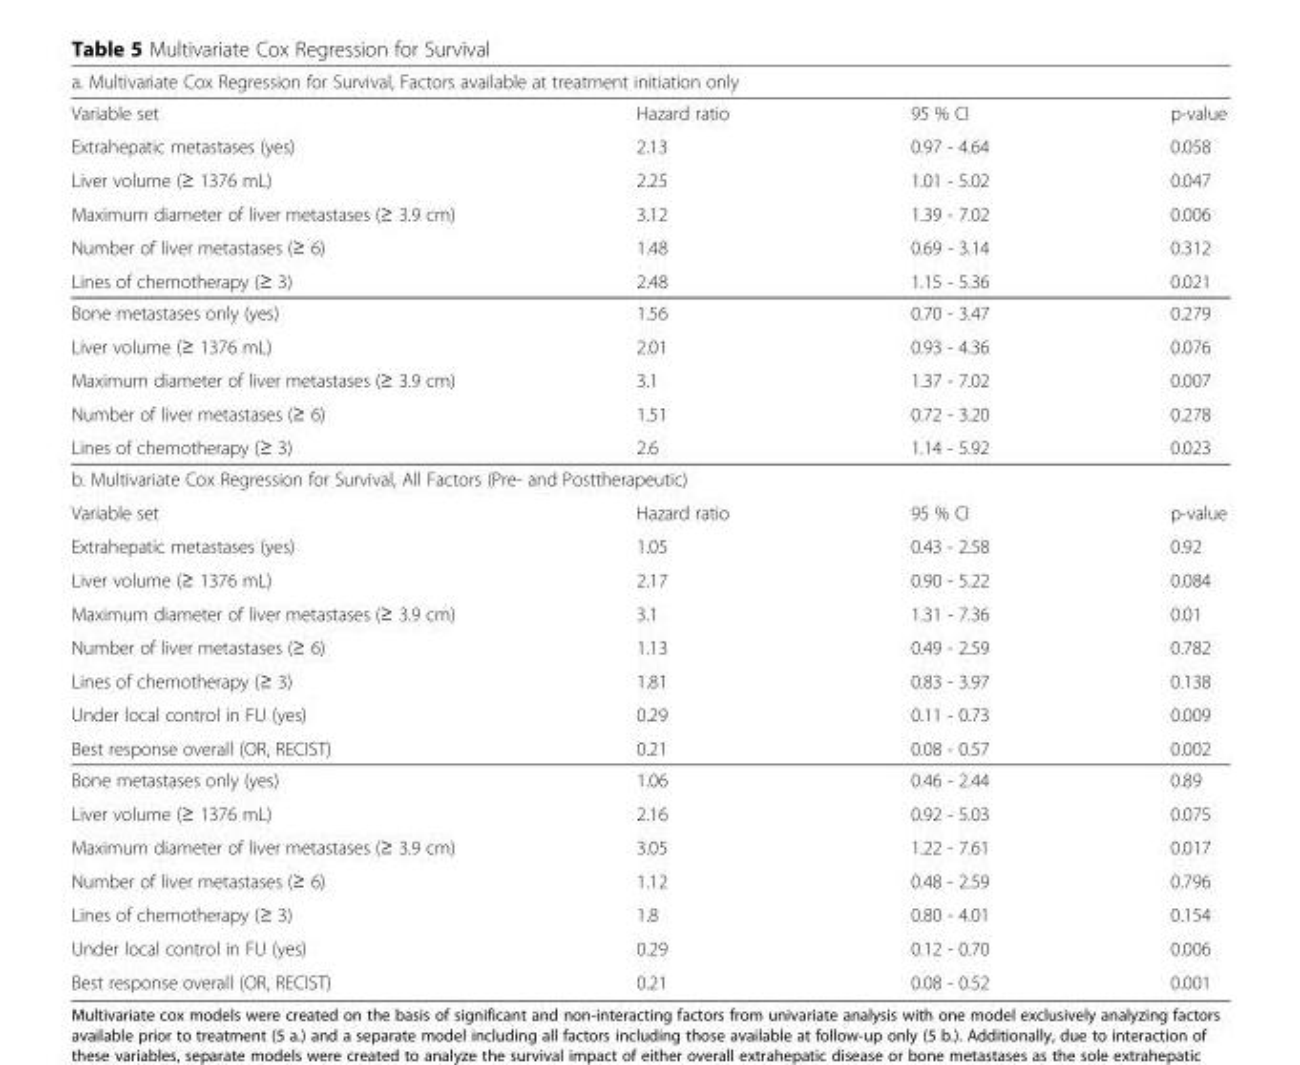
<table><tbody><tr><td colspan="4">a. Multivariate Cox Regression for Survival, Factors available at treatment initiation only</td></tr><tr><td>Variable set</td><td>Hazard ratio</td><td>95 % CI</td><td>p-value</td></tr><tr><td>Extrahepatic metastases (yes)</td><td>2.13</td><td>0.97 - 4.64</td><td>0.058</td></tr><tr><td>Liver volume (≥ 1376 mL)</td><td>2.25</td><td>1.01 - 5.02</td><td>0.047</td></tr><tr><td>Maximum diameter of liver metastases (≥ 3.9 cm)</td><td>3.12</td><td>1.39 - 7.02</td><td>0.006</td></tr><tr><td>Number of liver metastases (≥ 6)</td><td>1.48</td><td>0.69 - 3.14</td><td>0.312</td></tr><tr><td>Lines of chemotherapy (≥ 3)</td><td>2.48</td><td>1.15 - 5.36</td><td>0.021</td></tr><tr><td>Bone metastases only (yes)</td><td>1.56</td><td>0.70 - 3.47</td><td>0.279</td></tr><tr><td>Liver volume (≥ 1376 mL)</td><td>2.01</td><td>0.93 - 4.36</td><td>0.076</td></tr><tr><td>Maximum diameter of liver metastases (≥ 3.9 cm)</td><td>3.1</td><td>1.37 - 7.02</td><td>0.007</td></tr><tr><td>Number of liver metastases (≥ 6)</td><td>1.51</td><td>0.72 - 3.20</td><td>0.278</td></tr><tr><td>Lines of chemotherapy (≥ 3)</td><td>2.6</td><td>1.14 - 5.92</td><td>0.023</td></tr><tr><td colspan="4">b. Multivariate Cox Regression for Survival, All Factors (Pre- and Posttherapeutic)</td></tr><tr><td>Variable set</td><td>Hazard ratio</td><td>95 % CI</td><td>p-value</td></tr><tr><td>Extrahepatic metastases (yes)</td><td>1.05</td><td>0.43 - 2.58</td><td>0.92</td></tr><tr><td>Liver volume (≥ 1376 mL)</td><td>2.17</td><td>0.90 - 5.22</td><td>0.084</td></tr><tr><td>Maximum diameter of liver metastases (≥ 3.9 cm)</td><td>3.1</td><td>1.31 - 7.36</td><td>0.01</td></tr><tr><td>Number of liver metastases (≥ 6)</td><td>1.13</td><td>0.49 - 2.59</td><td>0.782</td></tr><tr><td>Lines of chemotherapy (≥ 3)</td><td>1.81</td><td>0.83 - 3.97</td><td>0.138</td></tr><tr><td>Under local control in FU (yes)</td><td>0.29</td><td>0.11 - 0.73</td><td>0.009</td></tr><tr><td>Best response overall (OR, RECIST)</td><td>0.21</td><td>0.08 - 0.57</td><td>0.002</td></tr><tr><td>Bone metastases only (yes)</td><td>1.06</td><td>0.46 - 2.44</td><td>0.89</td></tr><tr><td>Liver volume (≥ 1376 mL)</td><td>2.16</td><td>0.92 - 5.03</td><td>0.075</td></tr><tr><td>Maximum diameter of liver metastases (≥ 3.9 cm)</td><td>3.05</td><td>1.22 - 7.61</td><td>0.017</td></tr><tr><td>Number of liver metastases (≥ 6)</td><td>1.12</td><td>0.48 - 2.59</td><td>0.796</td></tr><tr><td>Lines of chemotherapy (≥ 3)</td><td>1.8</td><td>0.80 - 4.01</td><td>0.154</td></tr><tr><td>Under local control in FU (yes)</td><td>0.29</td><td>0.12 - 0.70</td><td>0.006</td></tr><tr><td>Best response overall (OR, RECIST)</td><td>0.21</td><td>0.08 - 0.52</td><td>0.001</td></tr></tbody></table>